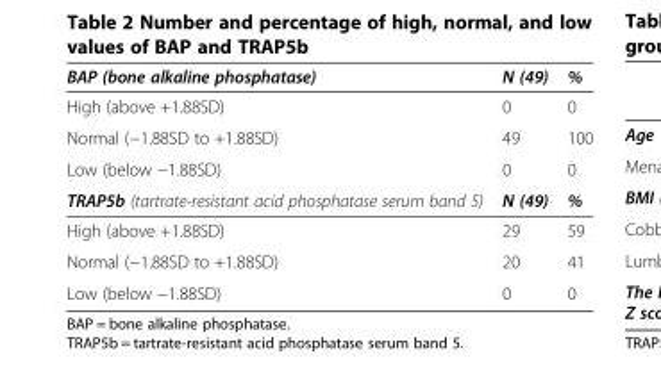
<table><thead><tr><td>BAP (bone alkaline phosphatase)</td><td>N (49)</td><td>%</td></tr></thead><tbody><tr><td>High (above +1.88SD)</td><td>0</td><td>0</td></tr><tr><td>Normal (−1.88SD to +1.88SD)</td><td>49</td><td>100</td></tr><tr><td>Low (below −1.88SD)</td><td>0</td><td>0</td></tr><tr><td>TRAP5b (tartrate-resistant acid phosphatase serum band 5)</td><td>N (49)</td><td>%</td></tr><tr><td>High (above +1.88SD)</td><td>29</td><td>59</td></tr><tr><td>Normal (−1.88SD to +1.88SD)</td><td>20</td><td>41</td></tr><tr><td>Low (below −1.88SD)</td><td>0</td><td>0</td></tr></tbody></table>